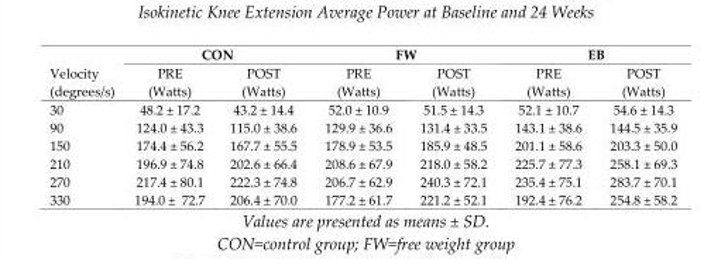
<table><thead><tr><td rowspan="2">Velocity (degrees/s)</td><td colspan="2">CON</td><td colspan="2">FW</td><td colspan="2">EB</td></tr><tr><td>PRE (Watts)</td><td>POST (Watts)</td><td>PRE (Watts)</td><td>POST (Watts)</td><td>PRE (Watts)</td><td>POST (Watts)</td></tr></thead><tbody><tr><td>30</td><td>48.2 ± 17.2</td><td>43.2 ± 14.4</td><td>52.0 ± 10.9</td><td>51.5 ± 14.3</td><td>52.1 ± 10.7</td><td>54.6 ± 14.3</td></tr><tr><td>90</td><td>124.0 ± 43.3</td><td>115.0 ± 38.6</td><td>129.9 ± 36.6</td><td>131.4 ± 33.5</td><td>143.1 ± 38.6</td><td>144.5 ± 35.9</td></tr><tr><td>150</td><td>174.4 ± 56.2</td><td>167.7 ± 55.5</td><td>178.9 ± 53.5</td><td>185.9 ± 48.5</td><td>201.1 ± 58.6</td><td>203.3 ± 50.0</td></tr><tr><td>210</td><td>196.9 ± 74.8</td><td>202.6 ± 66.4</td><td>208.6 ± 67.9</td><td>218.0 ± 58.2</td><td>225.7 ± 77.3</td><td>258.1 ± 69.3</td></tr><tr><td>270</td><td>217.4 ± 80.1</td><td>222.3 ± 74.8</td><td>206.7 ± 62.9</td><td>240.3 ± 72.1</td><td>235.4 ± 75.1</td><td>283.7 ± 70.1</td></tr><tr><td>330</td><td>194.0 ± 72.7</td><td>206.4 ± 70.0</td><td>177.2 ± 61.7</td><td>221.2 ± 52.1</td><td>192.4 ± 76.2</td><td>254.8 ± 58.2</td></tr></tbody></table>